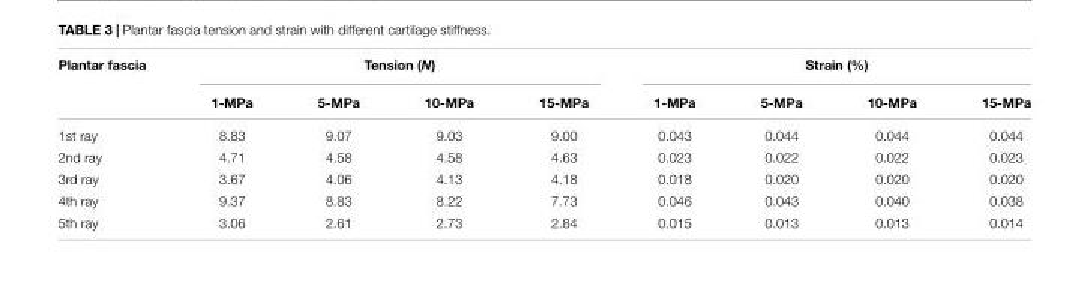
<table><thead><tr><td rowspan="2">Plantar fascia</td><td colspan="4">Tension (N)</td><td colspan="4">Strain (%)</td></tr><tr><td>1-MPa</td><td>5-MPa</td><td>10-MPa</td><td>15-MPa</td><td>1-MPa</td><td>5-MPa</td><td>10-MPa</td><td>15-MPa</td></tr></thead><tbody><tr><td>1st ray</td><td>8.83</td><td>9.07</td><td>9.03</td><td>9.00</td><td>0.043</td><td>0.044</td><td>0.044</td><td>0.044</td></tr><tr><td>2nd ray</td><td>4.71</td><td>4.58</td><td>4.58</td><td>4.63</td><td>0.023</td><td>0.022</td><td>0.022</td><td>0.023</td></tr><tr><td>3rd ray</td><td>3.67</td><td>4.06</td><td>4.13</td><td>4.18</td><td>0.018</td><td>0.020</td><td>0.020</td><td>0.020</td></tr><tr><td>4th ray</td><td>9.37</td><td>8.83</td><td>8.22</td><td>7.73</td><td>0.046</td><td>0.043</td><td>0.040</td><td>0.038</td></tr><tr><td>5th ray</td><td>3.06</td><td>2.61</td><td>2.73</td><td>2.84</td><td>0.015</td><td>0.013</td><td>0.013</td><td>0.014</td></tr></tbody></table>